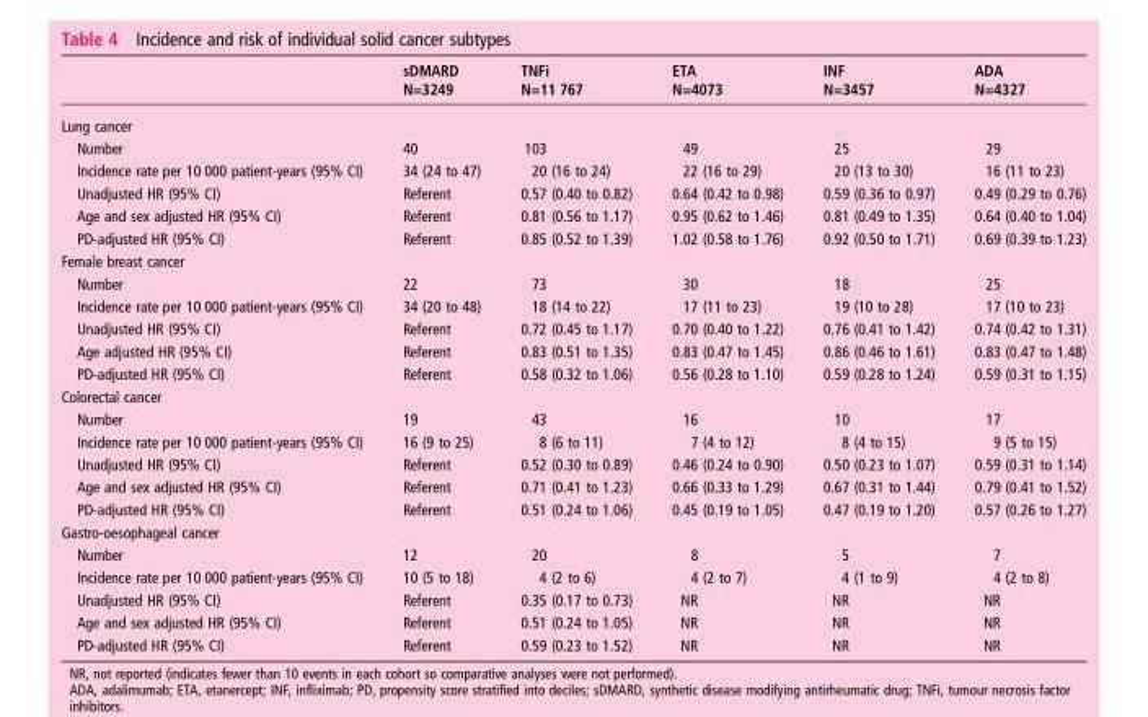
<table><thead><tr><td rowspan="2"></td><td rowspan="2">sDMARD N=3249</td><td rowspan="2">TNFi N=11 767</td><td rowspan="2">ETA N=4073</td><td rowspan="2">INF N=3457</td><td rowspan="2">ADA N=4327</td></tr><tr></tr></thead><tbody><tr><td colspan="6">Lung cancer</td></tr><tr><td>Number</td><td>40</td><td>103</td><td>49</td><td>25</td><td>29</td></tr><tr><td>Incidence rate per 10 000 patient-years (95% CI)</td><td>34 (24 to 47)</td><td>20 (16 to 24)</td><td>22 (16 to 29)</td><td>20 (13 to 30)</td><td>16 (11 to 23)</td></tr><tr><td>Unadjusted HR (95% CI)</td><td>Referent</td><td>0.57 (0.40 to 0.82)</td><td>0.64 (0.42 to 0.98)</td><td>0.59 (0.36 to 0.97)</td><td>0.49 (0.29 to 0.76)</td></tr><tr><td>Age and sex adjusted HR (95% CI)</td><td>Referent</td><td>0.81 (0.56 to 1.17)</td><td>0.95 (0.62 to 1.46)</td><td>0.81 (0.49 to 1.35)</td><td>0.64 (0.40 to 1.04)</td></tr><tr><td>PD-adjusted HR (95% CI)</td><td>Referent</td><td>0.85 (0.52 to 1.39)</td><td>1.02 (0.58 to 1.76)</td><td>0.92 (0.50 to 1.71)</td><td>0.69 (0.39 to 1.23)</td></tr><tr><td colspan="6">Female breast cancer</td></tr><tr><td>Number</td><td>22</td><td>73</td><td>30</td><td>18</td><td>25</td></tr><tr><td>Incidence rate per 10 000 patient-years (95% CI)</td><td>34 (20 to 48)</td><td>18 (14 to 22)</td><td>17 (11 to 23)</td><td>19 (10 to 28)</td><td>17 (10 to 23)</td></tr><tr><td>Unadjusted HR (95% CI)</td><td>Referent</td><td>0.72 (0.45 to 1.17)</td><td>0.70 (0.40 to 1.22)</td><td>0.76 (0.41 to 1.42)</td><td>0.74 (0.42 to 1.31)</td></tr><tr><td>Age adjusted HR (95% CI)</td><td>Referent</td><td>0.83 (0.51 to 1.35)</td><td>0.83 (0.47 to 1.45)</td><td>0.86 (0.46 to 1.61)</td><td>0.83 (0.47 to 1.48)</td></tr><tr><td>PD-adjusted HR (95% CI)</td><td>Referent</td><td>0.58 (0.32 to 1.06)</td><td>0.56 (0.28 to 1.10)</td><td>0.59 (0.28 to 1.24)</td><td>0.59 (0.31 to 1.15)</td></tr><tr><td colspan="6">Colorectal cancer</td></tr><tr><td>Number</td><td>19</td><td>43</td><td>16</td><td>10</td><td>17</td></tr><tr><td>Incidence rate per 10 000 patient-years (95% CI)</td><td>16 (9 to 25)</td><td>8 (6 to 11)</td><td>7 (4 to 12)</td><td>8 (4 to 15)</td><td>9 (5 to 15)</td></tr><tr><td>Unadjusted HR (95% CI)</td><td>Referent</td><td>0.52 (0.30 to 0.89)</td><td>0.46 (0.24 to 0.90)</td><td>0.50 (0.23 to 1.07)</td><td>0.59 (0.31 to 1.14)</td></tr><tr><td>Age and sex adjusted HR (95% CI)</td><td>Referent</td><td>0.71 (0.41 to 1.23)</td><td>0.66 (0.33 to 1.29)</td><td>0.67 (0.31 to 1.44)</td><td>0.79 (0.41 to 1.52)</td></tr><tr><td>PD-adjusted HR (95% CI)</td><td>Referent</td><td>0.51 (0.24 to 1.06)</td><td>0.45 (0.19 to 1.05)</td><td>0.47 (0.19 to 1.20)</td><td>0.57 (0.26 to 1.27)</td></tr><tr><td colspan="6">Gastro-oesophageal cancer</td></tr><tr><td>Number</td><td>12</td><td>20</td><td>8</td><td>5</td><td>7</td></tr><tr><td>Incidence rate per 10 000 patient-years (95% CI)</td><td>10 (5 to 18)</td><td>4 (2 to 6)</td><td>4 (2 to 7)</td><td>4 (1 to 9)</td><td>4 (2 to 8)</td></tr><tr><td>Unadjusted HR (95% CI)</td><td>Referent</td><td>0.35 (0.17 to 0.73)</td><td>NR</td><td>NR</td><td>NR</td></tr><tr><td>Age and sex adjusted HR (95% CI)</td><td>Referent</td><td>0.51 (0.24 to 1.05)</td><td>NR</td><td>NR</td><td>NR</td></tr><tr><td>PD-adjusted HR (95% CI)</td><td>Referent</td><td>0.59 (0.23 to 1.52)</td><td>NR</td><td>NR</td><td>NR</td></tr></tbody></table>